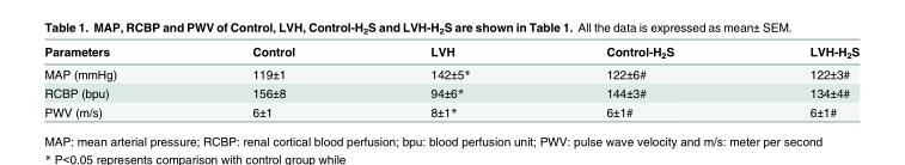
<table><thead><tr><td>Parameters</td><td>Control</td><td>LVH</td><td>Control-H<sub>2</sub>S</td><td>LVH-H<sub>2</sub>S</td></tr></thead><tbody><tr><td>MAP (mmHg)</td><td>119±1</td><td>142±5*</td><td>122±6#</td><td>122±3#</td></tr><tr><td>RCBP (bpu)</td><td>156±8</td><td>94±6*</td><td>144±3#</td><td>134±4#</td></tr><tr><td>PWV (m/s)</td><td>6±1</td><td>8±1*</td><td>6±1#</td><td>6±1#</td></tr></tbody></table>